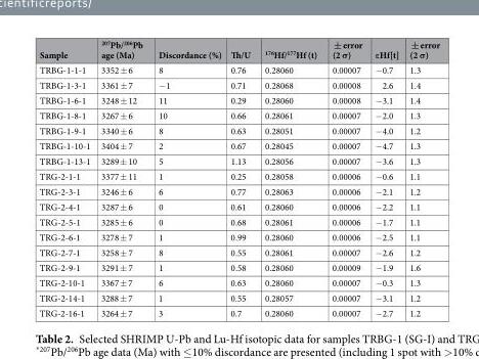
<table><thead><tr><td>Sample</td><td><sup>207</sup>Pb/<sup>206</sup>Pb age (Ma)</td><td>Discordance (%)</td><td>Th/U</td><td><sup>176</sup>Hf/<sup>177</sup>Hf (t)</td><td>± error (2 σ)</td><td>εHf[t]</td><td>± error (2 σ)</td></tr></thead><tbody><tr><td>TRBG-1-1-1</td><td>3352 ± 6</td><td>8</td><td>0.76</td><td>0.28060</td><td>0.00007</td><td>−0.7</td><td>1.3</td></tr><tr><td>TRBG-1-3-1</td><td>3361 ± 7</td><td>−1</td><td>0.71</td><td>0.28068</td><td>0.00008</td><td>2.6</td><td>1.4</td></tr><tr><td>TRBG-1-6-1</td><td>3248 ± 12</td><td>11</td><td>0.29</td><td>0.28060</td><td>0.00008</td><td>−3.1</td><td>1.4</td></tr><tr><td>TRBG-1-8-1</td><td>3267 ± 6</td><td>10</td><td>0.66</td><td>0.28061</td><td>0.00007</td><td>−2.0</td><td>1.3</td></tr><tr><td>TRBG-1-9-1</td><td>3340 ± 6</td><td>8</td><td>0.63</td><td>0.28051</td><td>0.00007</td><td>−4.0</td><td>1.2</td></tr><tr><td>TRBG-1-10-1</td><td>3404 ± 7</td><td>2</td><td>0.67</td><td>0.28045</td><td>0.00007</td><td>−4.7</td><td>1.3</td></tr><tr><td>TRBG-1-13-1</td><td>3289 ± 10</td><td>5</td><td>1.13</td><td>0.28056</td><td>0.00007</td><td>−3.6</td><td>1.3</td></tr><tr><td>TRG-2-1-1</td><td>3377 ± 11</td><td>1</td><td>0.25</td><td>0.28058</td><td>0.00006</td><td>−0.6</td><td>1.1</td></tr><tr><td>TRG-2-3-1</td><td>3246 ± 6</td><td>6</td><td>0.77</td><td>0.28063</td><td>0.00006</td><td>−2.1</td><td>1.2</td></tr><tr><td>TRG-2-4-1</td><td>3287 ± 6</td><td>0</td><td>0.61</td><td>0.28060</td><td>0.00006</td><td>−2.2</td><td>1.1</td></tr><tr><td>TRG-2-5-1</td><td>3285 ± 6</td><td>0</td><td>0.68</td><td>0.28061</td><td>0.00006</td><td>−1.7</td><td>1.1</td></tr><tr><td>TRG-2-6-1</td><td>3278 ± 7</td><td>1</td><td>0.99</td><td>0.28060</td><td>0.00006</td><td>−2.5</td><td>1.1</td></tr><tr><td>TRG-2-7-1</td><td>3258 ± 7</td><td>8</td><td>0.55</td><td>0.28061</td><td>0.00007</td><td>−2.6</td><td>1.2</td></tr><tr><td>TRG-2-9-1</td><td>3291 ± 7</td><td>1</td><td>0.58</td><td>0.28060</td><td>0.00009</td><td>−1.9</td><td>1.6</td></tr><tr><td>TRG-2-10-1</td><td>3367 ± 7</td><td>6</td><td>0.63</td><td>0.28060</td><td>0.00007</td><td>−0.3</td><td>1.3</td></tr><tr><td>TRG-2-14-1</td><td>3288 ± 7</td><td>1</td><td>0.55</td><td>0.28057</td><td>0.00007</td><td>−3.1</td><td>1.2</td></tr><tr><td>TRG-2-16-1</td><td>3264 ± 7</td><td>3</td><td>0.7</td><td>0.28060</td><td>0.00007</td><td>−2.7</td><td>1.2</td></tr></tbody></table>